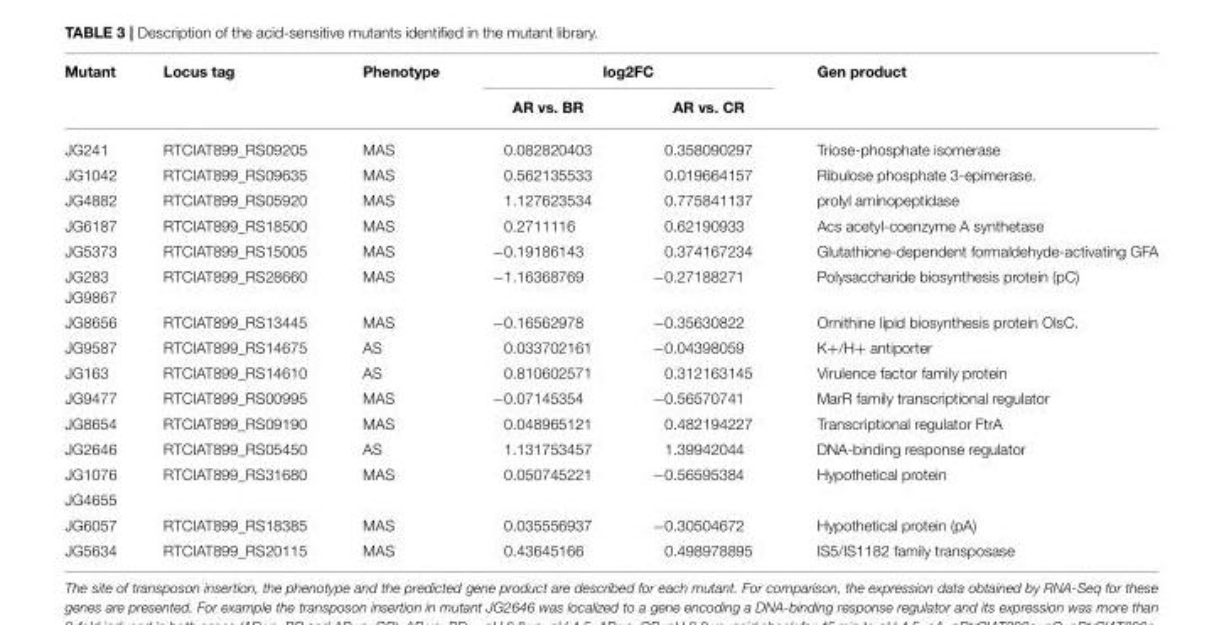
<table><thead><tr><td rowspan="2">Mutant</td><td rowspan="2">Locus tag</td><td rowspan="2">Phenotype</td><td colspan="2">log2FC</td><td rowspan="2">Gen product</td></tr><tr><td>AR vs. BR</td><td>AR vs. CR</td></tr></thead><tbody><tr><td>JG241</td><td>RTCIAT899_RS09205</td><td>MAS</td><td>0.082820403</td><td>0.358090297</td><td>Triose-phosphate isomerase</td></tr><tr><td>JG1042</td><td>RTCIAT899_RS09635</td><td>MAS</td><td>0.562135533</td><td>0.019664157</td><td>Ribulose phosphate 3-epimerase.</td></tr><tr><td>JG4882</td><td>RTCIAT899_RS05920</td><td>MAS</td><td>1.127623534</td><td>0.775841137</td><td>prolyl aminopeptidase</td></tr><tr><td>JG6187</td><td>RTCIAT899_RS18500</td><td>MAS</td><td>0.2711116</td><td>0.62190933</td><td>Acs acetyl-coenzyme A synthetase</td></tr><tr><td>JG5373</td><td>RTCIAT899_RS15005</td><td>MAS</td><td>−0.19186143</td><td>0.374167234</td><td>Glutathione-dependent formaldehyde-activating GFA</td></tr><tr><td>JG283 JG9867</td><td>RTCIAT899_RS28660</td><td>MAS</td><td>−1.16368769</td><td>−0.27188271</td><td>Polysaccharide biosynthesis protein (pC)</td></tr><tr><td>JG8656</td><td>RTCIAT899_RS13445</td><td>MAS</td><td>−0.16562978</td><td>−0.35630822</td><td>Ornithine lipid biosynthesis protein OlsC.</td></tr><tr><td>JG9587</td><td>RTCIAT899_RS14675</td><td>AS</td><td>0.033702161</td><td>−0.04398059</td><td>K+/H+ antiporter</td></tr><tr><td>JG163</td><td>RTCIAT899_RS14610</td><td>AS</td><td>0.810602571</td><td>0.312163145</td><td>Virulence factor family protein</td></tr><tr><td>JG9477</td><td>RTCIAT899_RS00995</td><td>MAS</td><td>−0.07145354</td><td>−0.56570741</td><td>MarR family transcriptional regulator</td></tr><tr><td>JG8654</td><td>RTCIAT899_RS09190</td><td>MAS</td><td>0.048965121</td><td>0.482194227</td><td>Transcriptional regulator FtrA</td></tr><tr><td>JG2646</td><td>RTCIAT899_RS05450</td><td>AS</td><td>1.131753457</td><td>1.39942044</td><td>DNA-binding response regulator</td></tr><tr><td>JG1076</td><td>RTCIAT899_RS31680</td><td>MAS</td><td>0.050745221</td><td>−0.56595384</td><td>Hypothetical protein</td></tr><tr><td colspan="6">JG4655</td></tr><tr><td>JG6057</td><td>RTCIAT899_RS18385</td><td>MAS</td><td>0.035556937</td><td>−0.30504672</td><td>Hypothetical protein (pA)</td></tr><tr><td>JG5634</td><td>RTCIAT899_RS20115</td><td>MAS</td><td>0.43645166</td><td>0.498978895</td><td>IS5/IS1182 family transposase</td></tr></tbody></table>